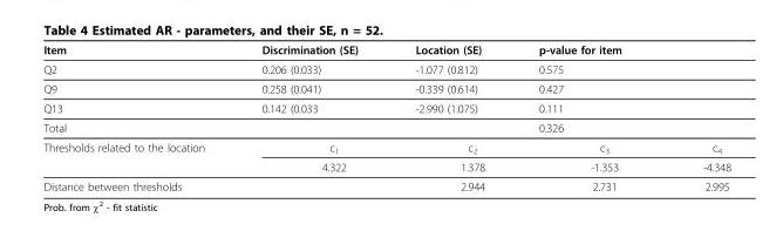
<table><thead><tr><td>Item</td><td>Discrimination (SE)</td><td>Location (SE)</td><td>p-value for item</td><td></td></tr></thead><tbody><tr><td>Q2</td><td>0.206 (0.033)</td><td>-1.077 (0.812)</td><td>0.575</td><td></td></tr><tr><td>Q9</td><td>0.258 (0.041)</td><td>-0.339 (0.614)</td><td>0.427</td><td></td></tr><tr><td>Q13</td><td>0.142 (0.033</td><td>-2.990 (1.075)</td><td>0.111</td><td></td></tr><tr><td>Total</td><td></td><td></td><td>0.326</td><td></td></tr><tr><td rowspan="2">Thresholds related to the location</td><td>c<sub>1</sub></td><td>c<sub>2</sub></td><td>c<sub>3</sub></td><td>c<sub>4</sub></td></tr><tr><td>4.322</td><td>1.378</td><td>-1.353</td><td>-4.348</td></tr><tr><td>Distance between thresholds</td><td></td><td>2.944</td><td>2.731</td><td>2.995</td></tr></tbody></table>